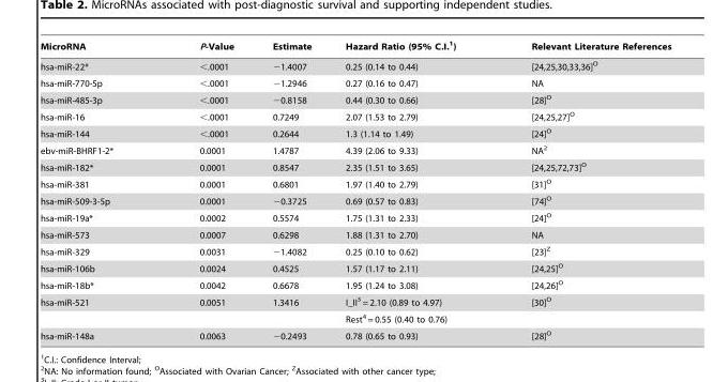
<table><thead><tr><td>MicroRNA</td><td>P-Value</td><td>Estimate</td><td>Hazard Ratio (95% C.I.<sup>1</sup>)</td><td>Relevant Literature References</td></tr></thead><tbody><tr><td>hsa-miR-22*</td><td>&lt;.0001</td><td>−1.4007</td><td>0.25 (0.14 to 0.44)</td><td>[24,25,30,33,36]O</td></tr><tr><td>hsa-miR-770-5p</td><td>&lt;.0001</td><td>−1.2946</td><td>0.27 (0.16 to 0.47)</td><td>NA</td></tr><tr><td>hsa-miR-485-3p</td><td>&lt;.0001</td><td>−0.8158</td><td>0.44 (0.30 to 0.66)</td><td>[28]<sup>O</sup></td></tr><tr><td>hsa-miR-16</td><td>&lt;.0001</td><td>0.7249</td><td>2.07 (1.53 to 2.79)</td><td>[24,25,27]O</td></tr><tr><td>hsa-miR-144</td><td>&lt;.0001</td><td>0.2644</td><td>1.3 (1.14 to 1.49)</td><td>[24]<sup>O</sup></td></tr><tr><td>ebv-miR-BHRF1-2*</td><td>0.0001</td><td>1.4787</td><td>4.39 (2.06 to 9.33)</td><td>NA<sup>2</sup></td></tr><tr><td>hsa-miR-182*</td><td>0.0001</td><td>0.8547</td><td>2.35 (1.51 to 3.65)</td><td>[24,25,72,73]O</td></tr><tr><td>hsa-miR-381</td><td>0.0001</td><td>0.6801</td><td>1.97 (1.40 to 2.79)</td><td>[31]<sup>O</sup></td></tr><tr><td>hsa-miR-509-3-5p</td><td>0.0001</td><td>−0.3725</td><td>0.69 (0.57 to 0.83)</td><td>[74]<sup>O</sup></td></tr><tr><td>hsa-miR-19a*</td><td>0.0002</td><td>0.5574</td><td>1.75 (1.31 to 2.33)</td><td>[24]<sup>O</sup></td></tr><tr><td>hsa-miR-573</td><td>0.0007</td><td>0.6298</td><td>1.88 (1.31 to 2.70)</td><td>NA</td></tr><tr><td>hsa-miR-329</td><td>0.0031</td><td>−1.4082</td><td>0.25 (0.10 to 0.62)</td><td>[23]<sup>Z</sup></td></tr><tr><td>hsa-miR-106b</td><td>0.0024</td><td>0.4525</td><td>1.57 (1.17 to 2.11)</td><td>[24,25]O</td></tr><tr><td>hsa-miR-18b*</td><td>0.0042</td><td>0.6678</td><td>1.95 (1.24 to 3.08)</td><td>[24,26]O</td></tr><tr><td rowspan="2">hsa-miR-521</td><td>0.0051</td><td>1.3416</td><td>I_II<sup>3</sup> = 2.10 (0.89 to 4.97)</td><td>[30]<sup>O</sup></td></tr><tr><td></td><td></td><td>Rest<sup>4</sup> = 0.55 (0.40 to 0.76)</td><td></td></tr><tr><td>hsa-miR-148a</td><td>0.0063</td><td>−0.2493</td><td>0.78 (0.65 to 0.93)</td><td>[28]<sup>O</sup></td></tr></tbody></table>